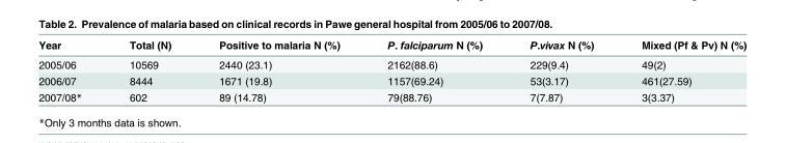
<table><thead><tr><td>Year</td><td>Total (N)</td><td>Positive to malaria N (%)</td><td>P. falciparum N (%)</td><td>P.vivax N (%)</td><td>Mixed (Pf &amp; Pv) N (%)</td></tr></thead><tbody><tr><td>2005/06</td><td>10569</td><td>2440 (23.1)</td><td>2162(88.6)</td><td>229(9.4)</td><td>49(2)</td></tr><tr><td>2006/07</td><td>8444</td><td>1671 (19.8)</td><td>1157(69.24)</td><td>53(3.17)</td><td>461(27.59)</td></tr><tr><td>2007/08*</td><td>602</td><td>89 (14.78)</td><td>79(88.76)</td><td>7(7.87)</td><td>3(3.37)</td></tr></tbody></table>